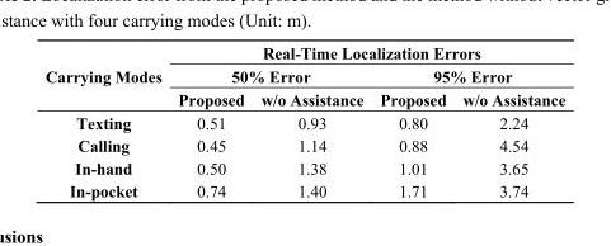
<table><thead><tr><td rowspan="3">Carrying Modes</td><td colspan="4">Real-Time Localization Errors</td></tr><tr><td colspan="2">50% Error</td><td colspan="2">95% Error</td></tr><tr><td>Proposed</td><td>w/o Assistance</td><td>Proposed</td><td>w/o Assistance</td></tr></thead><tbody><tr><td>Texting</td><td>0.51</td><td>0.93</td><td>0.80</td><td>2.24</td></tr><tr><td>Calling</td><td>0.45</td><td>1.14</td><td>0.88</td><td>4.54</td></tr><tr><td>In-hand</td><td>0.50</td><td>1.38</td><td>1.01</td><td>3.65</td></tr><tr><td>In-pocket</td><td>0.74</td><td>1.40</td><td>1.71</td><td>3.74</td></tr></tbody></table>